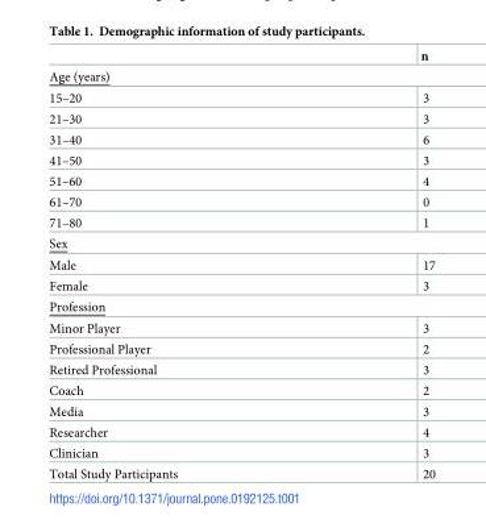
<table><thead><tr><td></td><td>n</td></tr></thead><tbody><tr><td colspan="2">Age (years)</td></tr><tr><td>15–20</td><td>3</td></tr><tr><td>21–30</td><td>3</td></tr><tr><td>31–40</td><td>6</td></tr><tr><td>41–50</td><td>3</td></tr><tr><td>51–60</td><td>4</td></tr><tr><td>61–70</td><td>0</td></tr><tr><td>71–80</td><td>1</td></tr><tr><td colspan="2">Sex</td></tr><tr><td>Male</td><td>17</td></tr><tr><td>Female</td><td>3</td></tr><tr><td colspan="2">Profession</td></tr><tr><td>Minor Player</td><td>3</td></tr><tr><td>Professional Player</td><td>2</td></tr><tr><td>Retired Professional</td><td>3</td></tr><tr><td>Coach</td><td>2</td></tr><tr><td>Media</td><td>3</td></tr><tr><td>Researcher</td><td>4</td></tr><tr><td>Clinician</td><td>3</td></tr><tr><td>Total Study Participants</td><td>20</td></tr></tbody></table>